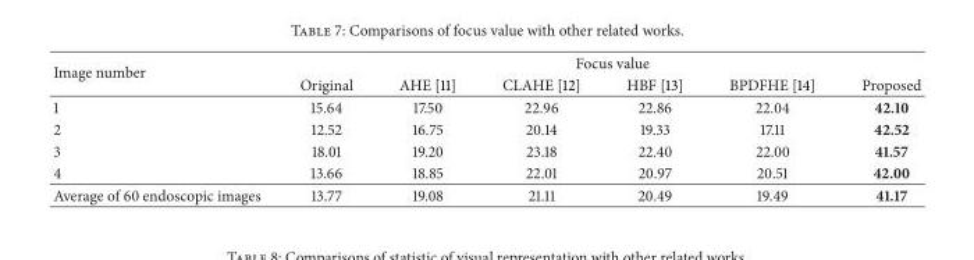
<table><thead><tr><td rowspan="2">Image number</td><td colspan="6">Focus value</td></tr><tr><td>Original</td><td>AHE [11]</td><td>CLAHE [12]</td><td>HBF [13]</td><td>BPDFHE [14]</td><td>Proposed</td></tr></thead><tbody><tr><td>1</td><td>15.64</td><td>17.50</td><td>22.96</td><td>22.86</td><td>22.04</td><td>42.10</td></tr><tr><td>2</td><td>12.52</td><td>16.75</td><td>20.14</td><td>19.33</td><td>17.11</td><td>42.52</td></tr><tr><td>3</td><td>18.01</td><td>19.20</td><td>23.18</td><td>22.40</td><td>22.00</td><td>41.57</td></tr><tr><td>4</td><td>13.66</td><td>18.85</td><td>22.01</td><td>20.97</td><td>20.51</td><td>42.00</td></tr><tr><td>Average of 60 endoscopic images</td><td>13.77</td><td>19.08</td><td>21.11</td><td>20.49</td><td>19.49</td><td>41.17</td></tr></tbody></table>